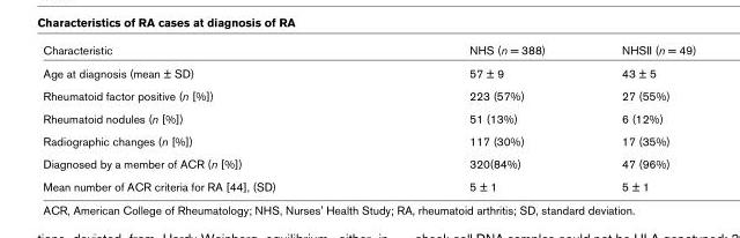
<table><thead><tr><td>Characteristic</td><td>NHS (n = 388)</td><td>NHSII (n = 49)</td></tr></thead><tbody><tr><td>Age at diagnosis (mean ± SD)</td><td>57 ± 9</td><td>43 ± 5</td></tr><tr><td>Rheumatoid factor positive (n [%])</td><td>223 (57%)</td><td>27 (55%)</td></tr><tr><td>Rheumatoid nodules (n [%])</td><td>51 (13%)</td><td>6 (12%)</td></tr><tr><td>Radiographic changes (n [%])</td><td>117 (30%)</td><td>17 (35%)</td></tr><tr><td>Diagnosed by a member of ACR (n [%])</td><td>320(84%)</td><td>47 (96%)</td></tr><tr><td>Mean number of ACR criteria for RA [44], (SD)</td><td>5 ± 1</td><td>5 ± 1</td></tr></tbody></table>